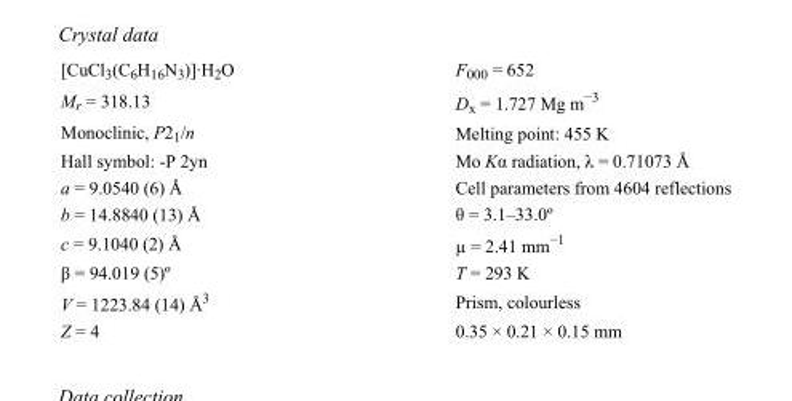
<table><tbody><tr><td>[CuCl<sub>3</sub>(C<sub>6</sub>H<sub>16</sub>N<sub>3</sub>)]·H<sub>2</sub>O</td><td>F000 = 652</td></tr><tr><td>M<sub>r</sub> = 318.13</td><td>D<sub>x</sub> = 1.727 Mg m<sup>−3</sup></td></tr><tr><td>Monoclinic, P2<sub>1</sub>/n</td><td>Melting point: 455 K</td></tr><tr><td>Hall symbol: -P 2yn</td><td>Mo Kα radiation, λ = 0.71073 Å</td></tr><tr><td>a = 9.0540 (6) Å</td><td>Cell parameters from 4604 reflections</td></tr><tr><td>b = 14.8840 (13) Å</td><td>θ = 3.1–33.0º</td></tr><tr><td>c = 9.1040 (2) Å</td><td>µ = 2.41 mm<sup>−1</sup></td></tr><tr><td>β = 94.019 (5)º</td><td>T = 293 K</td></tr><tr><td>V = 1223.84 (14) Å<sup>3</sup></td><td>Prism, colourless</td></tr><tr><td>Z = 4</td><td>0.35 × 0.21 × 0.15 mm</td></tr></tbody></table>